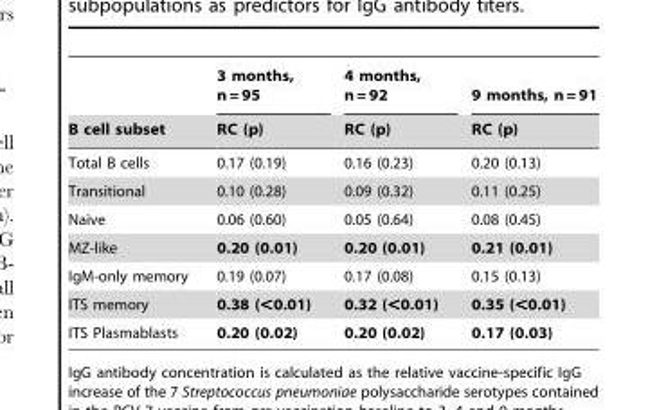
<table><thead><tr><td rowspan="2">B cell subset</td><td rowspan="2">3 months, n = 95 RC (p)</td><td rowspan="2">4 months, n = 92 RC (p)</td><td rowspan="2">9 months, n = 91 RC (p)</td></tr><tr></tr></thead><tbody><tr><td>Total B cells</td><td>0.17 (0.19)</td><td>0.16 (0.23)</td><td>0.20 (0.13)</td></tr><tr><td>Transitional</td><td>0.10 (0.28)</td><td>0.09 (0.32)</td><td>0.11 (0.25)</td></tr><tr><td>Naive</td><td>0.06 (0.60)</td><td>0.05 (0.64)</td><td>0.08 (0.45)</td></tr><tr><td>MZ-like</td><td>0.20 (0.01)</td><td>0.20 (0.01)</td><td>0.21 (0.01)</td></tr><tr><td>IgM-only memory</td><td>0.19 (0.07)</td><td>0.17 (0.08)</td><td>0.15 (0.13)</td></tr><tr><td>ITS memory</td><td>0.38 (&lt;0.01)</td><td>0.32 (&lt;0.01)</td><td>0.35 (&lt;0.01)</td></tr><tr><td>ITS Plasmablasts</td><td>0.20 (0.02)</td><td>0.20 (0.02)</td><td>0.17 (0.03)</td></tr></tbody></table>